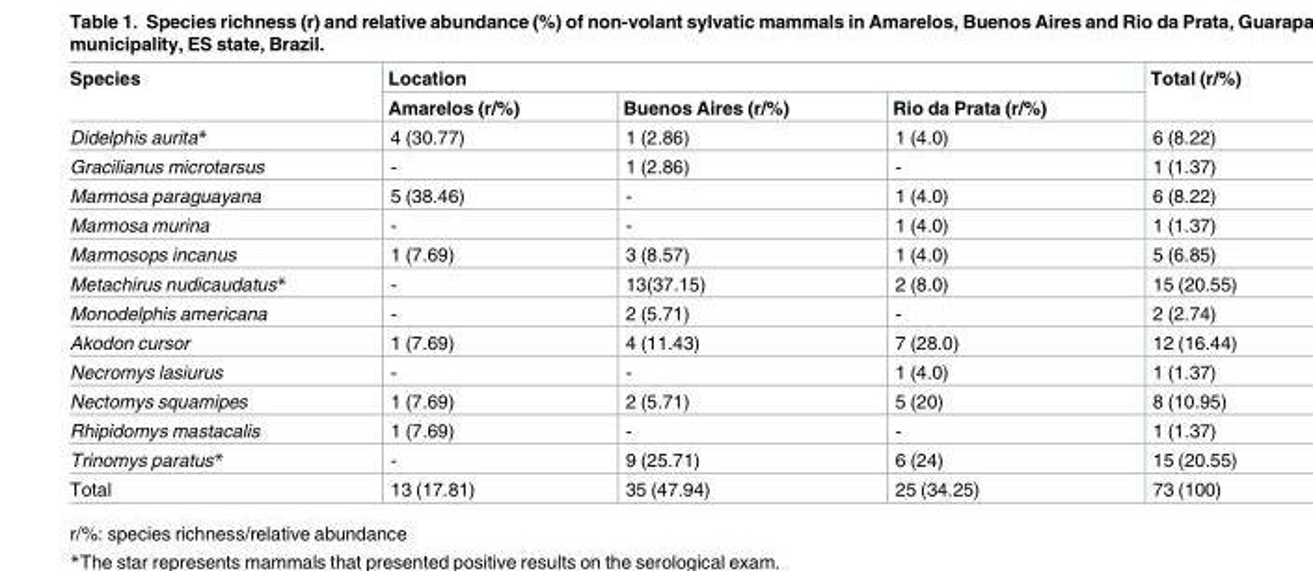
<table><thead><tr><td rowspan="2">Species</td><td colspan="3">Location</td><td rowspan="2">Total (r/%)</td></tr><tr><td>Amarelos (r/%)</td><td>Buenos Aires (r/%)</td><td>Rio da Prata (r/%)</td></tr></thead><tbody><tr><td>Didelphis aurita*</td><td>4 (30.77)</td><td>1 (2.86)</td><td>1 (4.0)</td><td>6 (8.22)</td></tr><tr><td>Gracilianus microtarsus</td><td>-</td><td>1 (2.86)</td><td>-</td><td>1 (1.37)</td></tr><tr><td>Marmosa paraguayana</td><td>5 (38.46)</td><td>-</td><td>1 (4.0)</td><td>6 (8.22)</td></tr><tr><td>Marmosa murina</td><td>-</td><td>-</td><td>1 (4.0)</td><td>1 (1.37)</td></tr><tr><td>Marmosops incanus</td><td>1 (7.69)</td><td>3 (8.57)</td><td>1 (4.0)</td><td>5 (6.85)</td></tr><tr><td>Metachirus nudicaudatus*</td><td>-</td><td>13(37.15)</td><td>2 (8.0)</td><td>15 (20.55)</td></tr><tr><td>Monodelphis americana</td><td>-</td><td>2 (5.71)</td><td>-</td><td>2 (2.74)</td></tr><tr><td>Akodon cursor</td><td>1 (7.69)</td><td>4 (11.43)</td><td>7 (28.0)</td><td>12 (16.44)</td></tr><tr><td>Necromys lasiurus</td><td>-</td><td>-</td><td>1 (4.0)</td><td>1 (1.37)</td></tr><tr><td>Nectomys squamipes</td><td>1 (7.69)</td><td>2 (5.71)</td><td>5 (20)</td><td>8 (10.95)</td></tr><tr><td>Rhipidomys mastacalis</td><td>1 (7.69)</td><td>-</td><td>-</td><td>1 (1.37)</td></tr><tr><td>Trinomys paratus*</td><td>-</td><td>9 (25.71)</td><td>6 (24)</td><td>15 (20.55)</td></tr><tr><td>Total</td><td>13 (17.81)</td><td>35 (47.94)</td><td>25 (34.25)</td><td>73 (100)</td></tr></tbody></table>